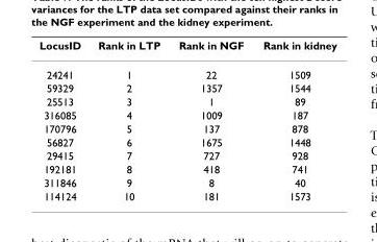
<table><thead><tr><td>LocusID</td><td>Rank in LTP</td><td>Rank in NGF</td><td>Rank in kidney</td></tr></thead><tbody><tr><td>24241</td><td>1</td><td>22</td><td>1509</td></tr><tr><td>59329</td><td>2</td><td>1357</td><td>1544</td></tr><tr><td>25513</td><td>3</td><td>1</td><td>89</td></tr><tr><td>316085</td><td>4</td><td>1009</td><td>187</td></tr><tr><td>170796</td><td>5</td><td>137</td><td>878</td></tr><tr><td>56827</td><td>6</td><td>1675</td><td>1448</td></tr><tr><td>29415</td><td>7</td><td>727</td><td>928</td></tr><tr><td>192181</td><td>8</td><td>418</td><td>741</td></tr><tr><td>311846</td><td>9</td><td>8</td><td>40</td></tr><tr><td>114124</td><td>10</td><td>181</td><td>1573</td></tr></tbody></table>